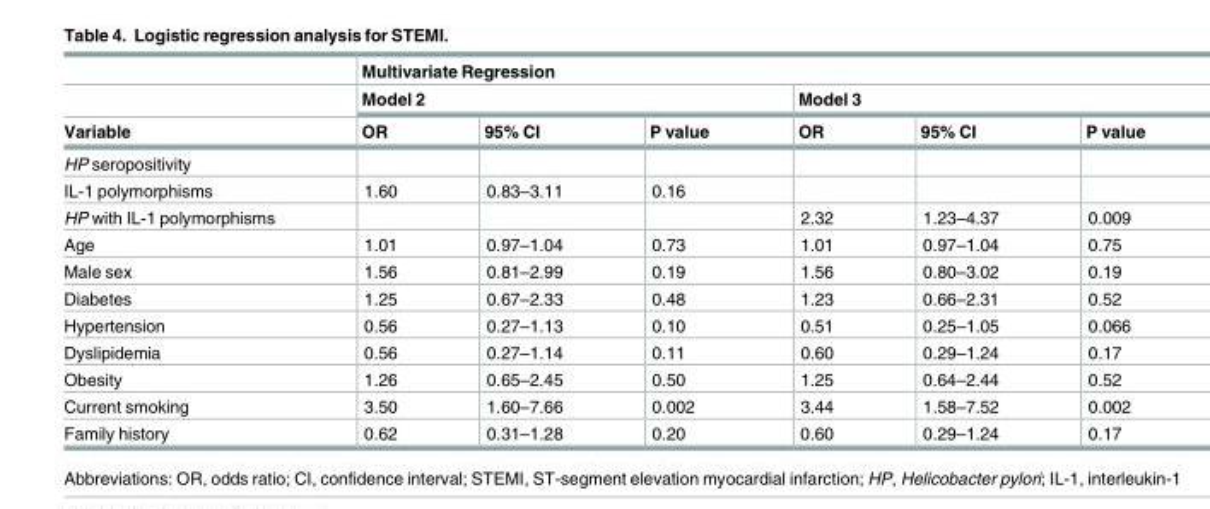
<table><thead><tr><td rowspan="3">Variable</td><td colspan="6">Multivariate Regression</td></tr><tr><td colspan="3">Model 2</td><td colspan="3">Model 3</td></tr><tr><td>OR</td><td>95% CI</td><td>P value</td><td>OR</td><td>95% CI</td><td>P value</td></tr></thead><tbody><tr><td colspan="7">HP seropositivity</td></tr><tr><td>IL-1 polymorphisms</td><td>1.60</td><td>0.83–3.11</td><td>0.16</td><td></td><td></td><td></td></tr><tr><td>HP with IL-1 polymorphisms</td><td></td><td></td><td></td><td>2.32</td><td>1.23–4.37</td><td>0.009</td></tr><tr><td>Age</td><td>1.01</td><td>0.97–1.04</td><td>0.73</td><td>1.01</td><td>0.97–1.04</td><td>0.75</td></tr><tr><td>Male sex</td><td>1.56</td><td>0.81–2.99</td><td>0.19</td><td>1.56</td><td>0.80–3.02</td><td>0.19</td></tr><tr><td>Diabetes</td><td>1.25</td><td>0.67–2.33</td><td>0.48</td><td>1.23</td><td>0.66–2.31</td><td>0.52</td></tr><tr><td>Hypertension</td><td>0.56</td><td>0.27–1.13</td><td>0.10</td><td>0.51</td><td>0.25–1.05</td><td>0.066</td></tr><tr><td>Dyslipidemia</td><td>0.56</td><td>0.27–1.14</td><td>0.11</td><td>0.60</td><td>0.29–1.24</td><td>0.17</td></tr><tr><td>Obesity</td><td>1.26</td><td>0.65–2.45</td><td>0.50</td><td>1.25</td><td>0.64–2.44</td><td>0.52</td></tr><tr><td>Current smoking</td><td>3.50</td><td>1.60–7.66</td><td>0.002</td><td>3.44</td><td>1.58–7.52</td><td>0.002</td></tr><tr><td>Family history</td><td>0.62</td><td>0.31–1.28</td><td>0.20</td><td>0.60</td><td>0.29–1.24</td><td>0.17</td></tr></tbody></table>